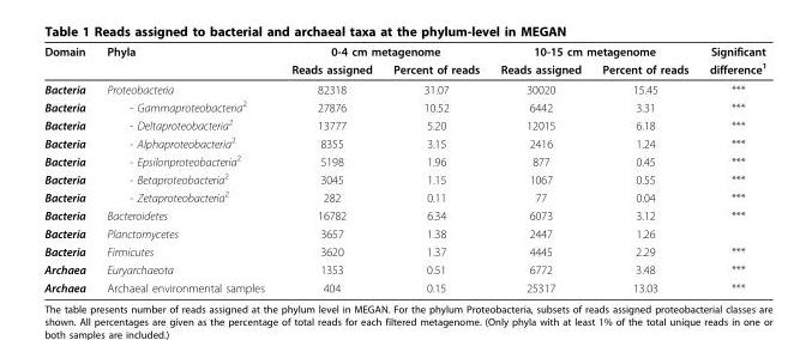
<table><thead><tr><td rowspan="2">Domain</td><td rowspan="2">Phyla</td><td colspan="2">0-4 cm metagenome</td><td colspan="2">10-15 cm metagenome</td><td rowspan="2">Significant difference<sup>1</sup></td></tr><tr><td>Reads assigned</td><td>Percent of reads</td><td>Reads assigned</td><td>Percent of reads</td></tr></thead><tbody><tr><td>Bacteria</td><td>Proteobacteria</td><td>82318</td><td>31.07</td><td>30020</td><td>15.45</td><td>***</td></tr><tr><td>Bacteria</td><td>- Gammaproteobacteria<sup>2</sup></td><td>27876</td><td>10.52</td><td>6442</td><td>3.31</td><td>***</td></tr><tr><td>Bacteria</td><td>- Deltaproteobacteria<sup>2</sup></td><td>13777</td><td>5.20</td><td>12015</td><td>6.18</td><td>***</td></tr><tr><td>Bacteria</td><td>- Alphaproteobacteria<sup>2</sup></td><td>8355</td><td>3.15</td><td>2416</td><td>1.24</td><td>***</td></tr><tr><td>Bacteria</td><td>- Epsilonproteobacteria<sup>2</sup></td><td>5198</td><td>1.96</td><td>877</td><td>0.45</td><td>***</td></tr><tr><td>Bacteria</td><td>- Betaproteobacteria<sup>2</sup></td><td>3045</td><td>1.15</td><td>1067</td><td>0.55</td><td>***</td></tr><tr><td>Bacteria</td><td>- Zetaproteobacteria<sup>2</sup></td><td>282</td><td>0.11</td><td>77</td><td>0.04</td><td>***</td></tr><tr><td>Bacteria</td><td>Bacteroidetes</td><td>16782</td><td>6.34</td><td>6073</td><td>3.12</td><td>***</td></tr><tr><td>Bacteria</td><td>Planctomycetes</td><td>3657</td><td>1.38</td><td>2447</td><td>1.26</td><td></td></tr><tr><td>Bacteria</td><td>Firmicutes</td><td>3620</td><td>1.37</td><td>4445</td><td>2.29</td><td>***</td></tr><tr><td>Archaea</td><td>Euryarchaeota</td><td>1353</td><td>0.51</td><td>6772</td><td>3.48</td><td>***</td></tr><tr><td>Archaea</td><td>Archaeal environmental samples</td><td>404</td><td>0.15</td><td>25317</td><td>13.03</td><td>***</td></tr></tbody></table>